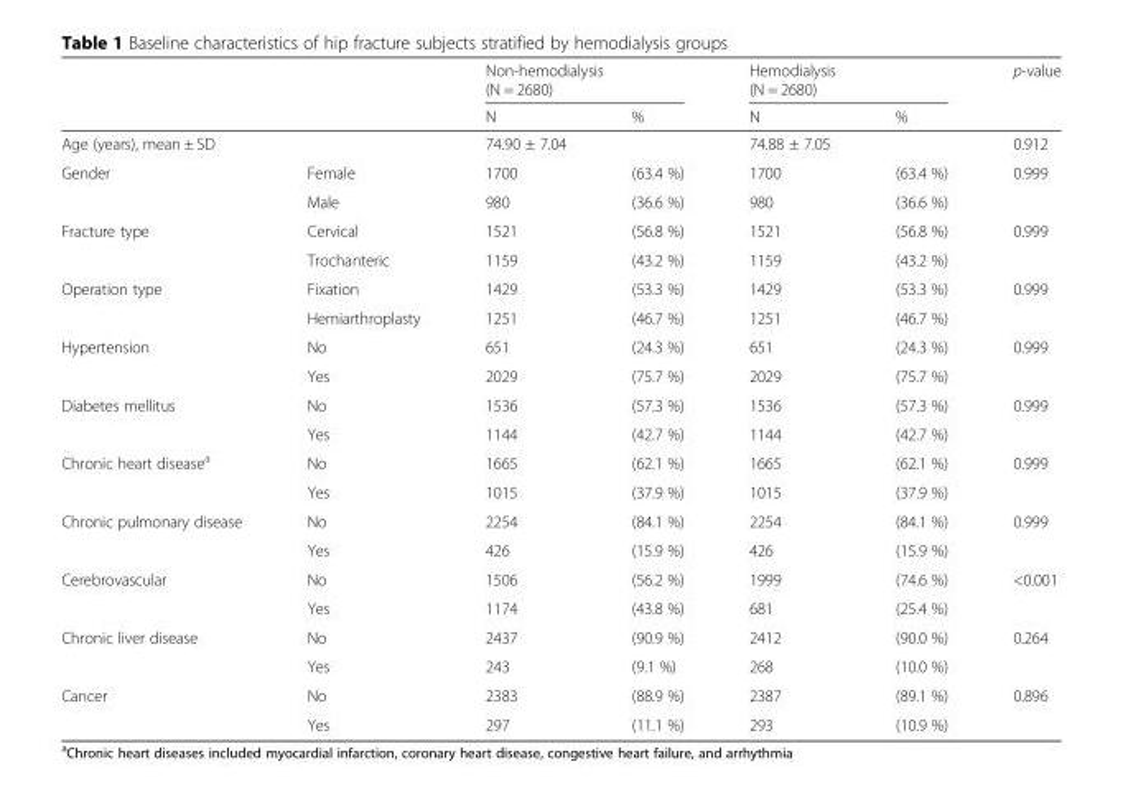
<table><thead><tr><td rowspan="2"></td><td rowspan="2"></td><td colspan="2">Non-hemodialysis (N = 2680)</td><td colspan="2">Hemodialysis (N = 2680)</td><td rowspan="2">p-value</td></tr><tr><td>N</td><td>%</td><td>N</td><td>%</td></tr></thead><tbody><tr><td>Age (years), mean ± SD</td><td></td><td>74.90 ± 7.04</td><td></td><td>74.88 ± 7.05</td><td></td><td>0.912</td></tr><tr><td rowspan="2">Gender</td><td>Female</td><td>1700</td><td>(63.4 %)</td><td>1700</td><td>(63.4 %)</td><td>0.999</td></tr><tr><td>Male</td><td>980</td><td>(36.6 %)</td><td>980</td><td>(36.6 %)</td><td></td></tr><tr><td rowspan="2">Fracture type</td><td>Cervical</td><td>1521</td><td>(56.8 %)</td><td>1521</td><td>(56.8 %)</td><td>0.999</td></tr><tr><td>Trochanteric</td><td>1159</td><td>(43.2 %)</td><td>1159</td><td>(43.2 %)</td><td></td></tr><tr><td rowspan="2">Operation type</td><td>Fixation</td><td>1429</td><td>(53.3 %)</td><td>1429</td><td>(53.3 %)</td><td>0.999</td></tr><tr><td>Hemiarthroplasty</td><td>1251</td><td>(46.7 %)</td><td>1251</td><td>(46.7 %)</td><td></td></tr><tr><td rowspan="2">Hypertension</td><td>No</td><td>651</td><td>(24.3 %)</td><td>651</td><td>(24.3 %)</td><td>0.999</td></tr><tr><td>Yes</td><td>2029</td><td>(75.7 %)</td><td>2029</td><td>(75.7 %)</td><td></td></tr><tr><td rowspan="2">Diabetes mellitus</td><td>No</td><td>1536</td><td>(57.3 %)</td><td>1536</td><td>(57.3 %)</td><td>0.999</td></tr><tr><td>Yes</td><td>1144</td><td>(42.7 %)</td><td>1144</td><td>(42.7 %)</td><td></td></tr><tr><td rowspan="2">Chronic heart disease<sup>a</sup></td><td>No</td><td>1665</td><td>(62.1 %)</td><td>1665</td><td>(62.1 %)</td><td>0.999</td></tr><tr><td>Yes</td><td>1015</td><td>(37.9 %)</td><td>1015</td><td>(37.9 %)</td><td></td></tr><tr><td rowspan="2">Chronic pulmonary disease</td><td>No</td><td>2254</td><td>(84.1 %)</td><td>2254</td><td>(84.1 %)</td><td>0.999</td></tr><tr><td>Yes</td><td>426</td><td>(15.9 %)</td><td>426</td><td>(15.9 %)</td><td></td></tr><tr><td rowspan="2">Cerebrovascular</td><td>No</td><td>1506</td><td>(56.2 %)</td><td>1999</td><td>(74.6 %)</td><td>&lt;0.001</td></tr><tr><td>Yes</td><td>1174</td><td>(43.8 %)</td><td>681</td><td>(25.4 %)</td><td></td></tr><tr><td rowspan="2">Chronic liver disease</td><td>No</td><td>2437</td><td>(90.9 %)</td><td>2412</td><td>(90.0 %)</td><td>0.264</td></tr><tr><td>Yes</td><td>243</td><td>(9.1 %)</td><td>268</td><td>(10.0 %)</td><td></td></tr><tr><td rowspan="2">Cancer</td><td>No</td><td>2383</td><td>(88.9 %)</td><td>2387</td><td>(89.1 %)</td><td>0.896</td></tr><tr><td>Yes</td><td>297</td><td>(11.1 %)</td><td>293</td><td>(10.9 %)</td><td></td></tr></tbody></table>